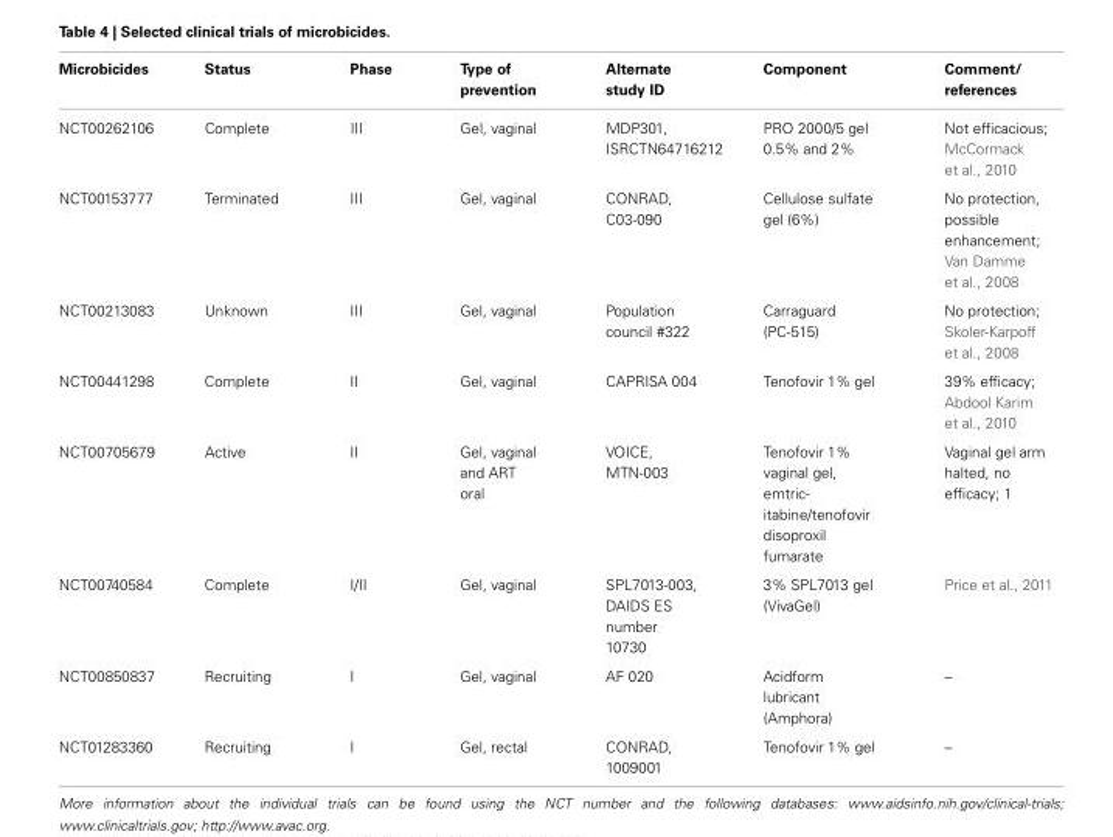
<table><thead><tr><td>Microbicides</td><td>Status</td><td>Phase</td><td>Type of prevention</td><td>Alternate study ID</td><td>Component</td><td>Comment/ references</td></tr></thead><tbody><tr><td>NCT00262106</td><td>Complete</td><td>III</td><td>Gel, vaginal</td><td>MDP301, ISRCTN64716212</td><td>PRO 2000/5 gel 0.5% and 2%</td><td>Not efficacious; McCormack et al., 2010</td></tr><tr><td>NCT00153777</td><td>Terminated</td><td>III</td><td>Gel, vaginal</td><td>CONRAD, C03-090</td><td>Cellulose sulfate gel (6%)</td><td>No protection, possible enhancement; Van Damme et al., 2008</td></tr><tr><td>NCT00213083</td><td>Unknown</td><td>III</td><td>Gel, vaginal</td><td>Population council #322</td><td>Carraguard (PC-515)</td><td>No protection; Skoler-Karpoff et al., 2008</td></tr><tr><td>NCT00441298</td><td>Complete</td><td>II</td><td>Gel, vaginal</td><td>CAPRISA 004</td><td>Tenofovir 1% gel</td><td>39% efficacy; Abdool Karim et al., 2010</td></tr><tr><td>NCT00705679</td><td>Active</td><td>II</td><td>Gel, vaginal and ART oral</td><td>VOICE, MTN-003</td><td>Tenofovir 1% vaginal gel, emtric- itabine/tenofovir disoproxil fumarate</td><td>Vaginal gel arm halted, no efficacy; 1</td></tr><tr><td>NCT00740584</td><td>Complete</td><td>I/II</td><td>Gel, vaginal</td><td>SPL7013-003, DAIDS ES number 10730</td><td>3% SPL7013 gel (VivaGel)</td><td>Price et al., 2011</td></tr><tr><td>NCT00850837</td><td>Recruiting</td><td>I</td><td>Gel, vaginal</td><td>AF 020</td><td>Acidform lubricant (Amphora)</td><td>–</td></tr><tr><td>NCT01283360</td><td>Recruiting</td><td>I</td><td>Gel, rectal</td><td>CONRAD, 1009001</td><td>Tenofovir 1% gel</td><td>–</td></tr></tbody></table>